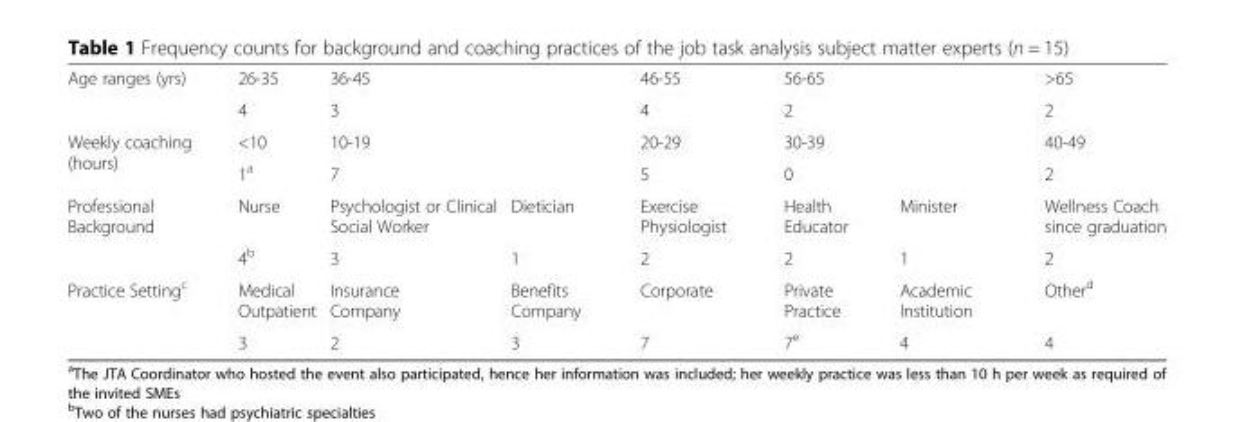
<table><tbody><tr><td rowspan="2">Age ranges (yrs)</td><td>26-35</td><td colspan="2">36-45</td><td>46-55</td><td colspan="2">56-65</td><td>&gt;65</td></tr><tr><td>4</td><td colspan="2">3</td><td>4</td><td colspan="2">2</td><td>2</td></tr><tr><td rowspan="2">Weekly coaching (hours)</td><td>&lt;10</td><td colspan="2">10-19</td><td>20-29</td><td colspan="2">30-39</td><td>40-49</td></tr><tr><td>1<sup>a</sup></td><td colspan="2">7</td><td>5</td><td colspan="2">0</td><td>2</td></tr><tr><td rowspan="2">Professional Background</td><td>Nurse</td><td>Psychologist or Clinical Social Worker</td><td>Dietician</td><td>Exercise Physiologist</td><td>Health Educator</td><td>Minister</td><td>Wellness Coach since graduation</td></tr><tr><td>4<sup>b</sup></td><td>3</td><td>1</td><td>2</td><td>2</td><td>1</td><td>2</td></tr><tr><td rowspan="2">Practice Setting<sup>c</sup></td><td>Medical Outpatient</td><td>Insurance Company</td><td>Benefits Company</td><td>Corporate</td><td>Private Practice</td><td>Academic Institution</td><td>Other<sup>d</sup></td></tr><tr><td>3</td><td>2</td><td>3</td><td>7</td><td>7<sup>e</sup></td><td>4</td><td>4</td></tr></tbody></table>